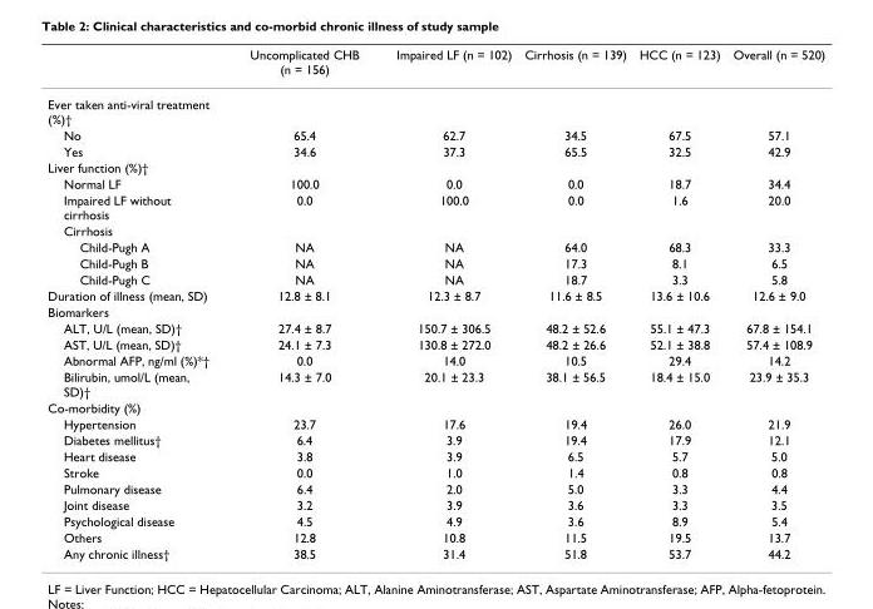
<table><thead><tr><td></td><td>Uncomplicated CHB (n = 156)</td><td>Impaired LF (n = 102)</td><td>Cirrhosis (n = 139)</td><td>HCC (n = 123)</td><td>Overall (n = 520)</td></tr></thead><tbody><tr><td colspan="6">Ever taken anti-viral treatment (%)†</td></tr><tr><td>No</td><td>65.4</td><td>62.7</td><td>34.5</td><td>67.5</td><td>57.1</td></tr><tr><td>Yes</td><td>34.6</td><td>37.3</td><td>65.5</td><td>32.5</td><td>42.9</td></tr><tr><td colspan="6">Liver function (%)†</td></tr><tr><td>Normal LF</td><td>100.0</td><td>0.0</td><td>0.0</td><td>18.7</td><td>34.4</td></tr><tr><td>Impaired LF without cirrhosis</td><td>0.0</td><td>100.0</td><td>0.0</td><td>1.6</td><td>20.0</td></tr><tr><td colspan="6">Cirrhosis</td></tr><tr><td>Child-Pugh A</td><td>NA</td><td>NA</td><td>64.0</td><td>68.3</td><td>33.3</td></tr><tr><td>Child-Pugh B</td><td>NA</td><td>NA</td><td>17.3</td><td>8.1</td><td>6.5</td></tr><tr><td>Child-Pugh C</td><td>NA</td><td>NA</td><td>18.7</td><td>3.3</td><td>5.8</td></tr><tr><td>Duration of illness (mean, SD)</td><td>12.8 ± 8.1</td><td>12.3 ± 8.7</td><td>11.6 ± 8.5</td><td>13.6 ± 10.6</td><td>12.6 ± 9.0</td></tr><tr><td colspan="6">Biomarkers</td></tr><tr><td>ALT, U/L (mean, SD)†</td><td>27.4 ± 8.7</td><td>150.7 ± 306.5</td><td>48.2 ± 52.6</td><td>55.1 ± 47.3</td><td>67.8 ± 154.1</td></tr><tr><td>AST, U/L (mean, SD)†</td><td>24.1 ± 7.3</td><td>130.8 ± 272.0</td><td>48.2 ± 26.6</td><td>52.1 ± 38.8</td><td>57.4 ± 108.9</td></tr><tr><td>Abnormal AFP, ng/ml (%)*†</td><td>0.0</td><td>14.0</td><td>10.5</td><td>29.4</td><td>14.2</td></tr><tr><td>Bilirubin, umol/L (mean, SD)†</td><td>14.3 ± 7.0</td><td>20.1 ± 23.3</td><td>38.1 ± 56.5</td><td>18.4 ± 15.0</td><td>23.9 ± 35.3</td></tr><tr><td colspan="6">Co-morbidity (%)</td></tr><tr><td>Hypertension</td><td>23.7</td><td>17.6</td><td>19.4</td><td>26.0</td><td>21.9</td></tr><tr><td>Diabetes mellitus†</td><td>6.4</td><td>3.9</td><td>19.4</td><td>17.9</td><td>12.1</td></tr><tr><td>Heart disease</td><td>3.8</td><td>3.9</td><td>6.5</td><td>5.7</td><td>5.0</td></tr><tr><td>Stroke</td><td>0.0</td><td>1.0</td><td>1.4</td><td>0.8</td><td>0.8</td></tr><tr><td>Pulmonary disease</td><td>6.4</td><td>2.0</td><td>5.0</td><td>3.3</td><td>4.4</td></tr><tr><td>Joint disease</td><td>3.2</td><td>3.9</td><td>3.6</td><td>3.3</td><td>3.5</td></tr><tr><td>Psychological disease</td><td>4.5</td><td>4.9</td><td>3.6</td><td>8.9</td><td>5.4</td></tr><tr><td>Others</td><td>12.8</td><td>10.8</td><td>11.5</td><td>19.5</td><td>13.7</td></tr><tr><td>Any chronic illness†</td><td>38.5</td><td>31.4</td><td>51.8</td><td>53.7</td><td>44.2</td></tr></tbody></table>